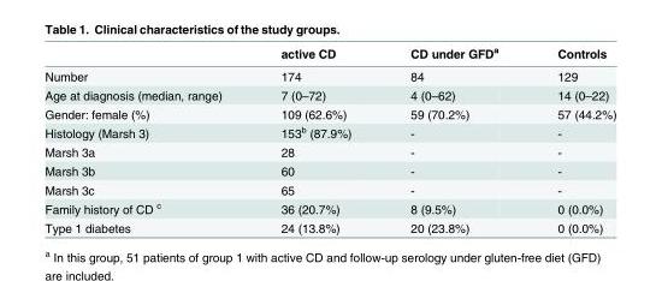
<table><thead><tr><td></td><td>active CD</td><td>CD under GFD<sup>a</sup></td><td>Controls</td></tr></thead><tbody><tr><td>Number</td><td>174</td><td>84</td><td>129</td></tr><tr><td>Age at diagnosis (median, range)</td><td>7 (0–72)</td><td>4 (0–62)</td><td>14 (0–22)</td></tr><tr><td>Gender: female (%)</td><td>109 (62.6%)</td><td>59 (70.2%)</td><td>57 (44.2%)</td></tr><tr><td>Histology (Marsh 3)</td><td>153<sup>b</sup> (87.9%)</td><td>-</td><td>-</td></tr><tr><td>Marsh 3a</td><td>28</td><td>-</td><td>-</td></tr><tr><td>Marsh 3b</td><td>60</td><td>-</td><td>-</td></tr><tr><td>Marsh 3c</td><td>65</td><td>-</td><td>-</td></tr><tr><td>Family history of CD <sup>c</sup></td><td>36 (20.7%)</td><td>8 (9.5%)</td><td>0 (0.0%)</td></tr><tr><td>Type 1 diabetes</td><td>24 (13.8%)</td><td>20 (23.8%)</td><td>0 (0.0%)</td></tr></tbody></table>